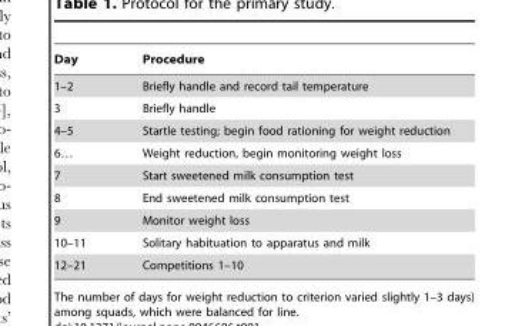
<table><thead><tr><td>Day</td><td>Procedure</td></tr></thead><tbody><tr><td>1–2</td><td>Briefly handle and record tail temperature</td></tr><tr><td>3</td><td>Briefly handle</td></tr><tr><td>4–5</td><td>Startle testing; begin food rationing for weight reduction</td></tr><tr><td>6…</td><td>Weight reduction, begin monitoring weight loss</td></tr><tr><td>7</td><td>Start sweetened milk consumption test</td></tr><tr><td>8</td><td>End sweetened milk consumption test</td></tr><tr><td>9</td><td>Monitor weight loss</td></tr><tr><td>10–11</td><td>Solitary habituation to apparatus and milk</td></tr><tr><td>12–21</td><td>Competitions 1–10</td></tr></tbody></table>